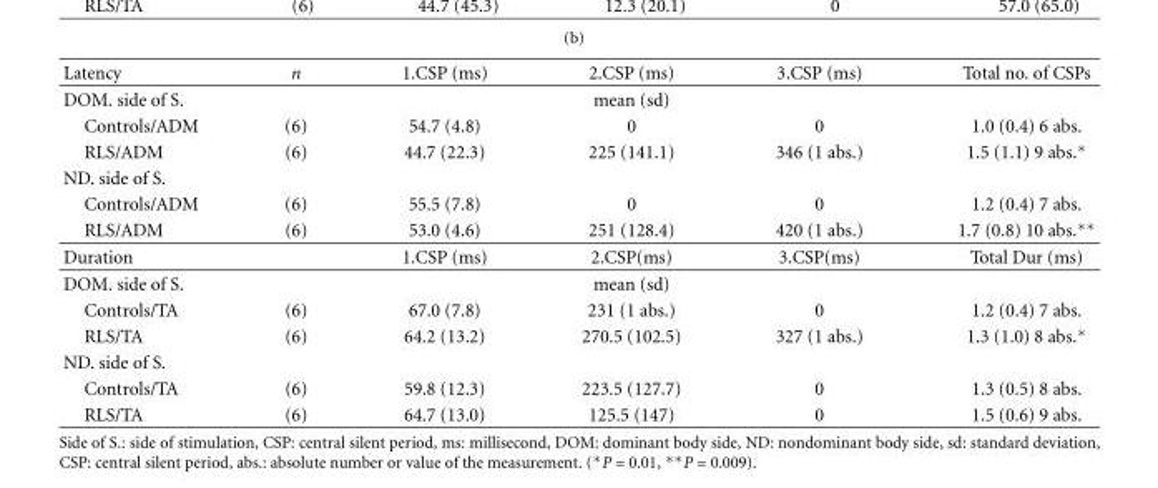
<table><thead><tr><td>Latency</td><td>n</td><td>1.CSP (ms)</td><td>2.CSP (ms)</td><td>3.CSP (ms)</td><td>Total no. of CSPs</td></tr></thead><tbody><tr><td>DOM. side of S.</td><td></td><td></td><td>mean (sd)</td><td></td><td></td></tr><tr><td>Controls/ADM</td><td>(6)</td><td>54.7 (4.8)</td><td>0</td><td>0</td><td>1.0 (0.4) 6 abs.</td></tr><tr><td>RLS/ADM</td><td>(6)</td><td>44.7 (22.3)</td><td>225 (141.1)</td><td>346 (1 abs.)</td><td>1.5 (1.1) 9 abs.∗</td></tr><tr><td colspan="6">ND. side of S.</td></tr><tr><td>Controls/ADM</td><td>(6)</td><td>55.5 (7.8)</td><td>0</td><td>0</td><td>1.2 (0.4) 7 abs.</td></tr><tr><td>RLS/ADM</td><td>(6)</td><td>53.0 (4.6)</td><td>251 (128.4)</td><td>420 (1 abs.)</td><td>1.7 (0.8) 10 abs.∗∗</td></tr><tr><td>Duration</td><td></td><td>1.CSP (ms)</td><td>2.CSP(ms)</td><td>3.CSP(ms)</td><td>Total Dur (ms)</td></tr><tr><td>DOM. side of S.</td><td></td><td></td><td>mean (sd)</td><td></td><td></td></tr><tr><td>Controls/TA</td><td>(6)</td><td>67.0 (7.8)</td><td>231 (1 abs.)</td><td>0</td><td>1.2 (0.4) 7 abs.</td></tr><tr><td>RLS/TA</td><td>(6)</td><td>64.2 (13.2)</td><td>270.5 (102.5)</td><td>327 (1 abs.)</td><td>1.3 (1.0) 8 abs.∗</td></tr><tr><td colspan="6">ND. side of S.</td></tr><tr><td>Controls/TA</td><td>(6)</td><td>59.8 (12.3)</td><td>223.5 (127.7)</td><td>0</td><td>1.3 (0.5) 8 abs.</td></tr><tr><td>RLS/TA</td><td>(6)</td><td>64.7 (13.0)</td><td>125.5 (147)</td><td>0</td><td>1.5 (0.6) 9 abs.</td></tr></tbody></table>